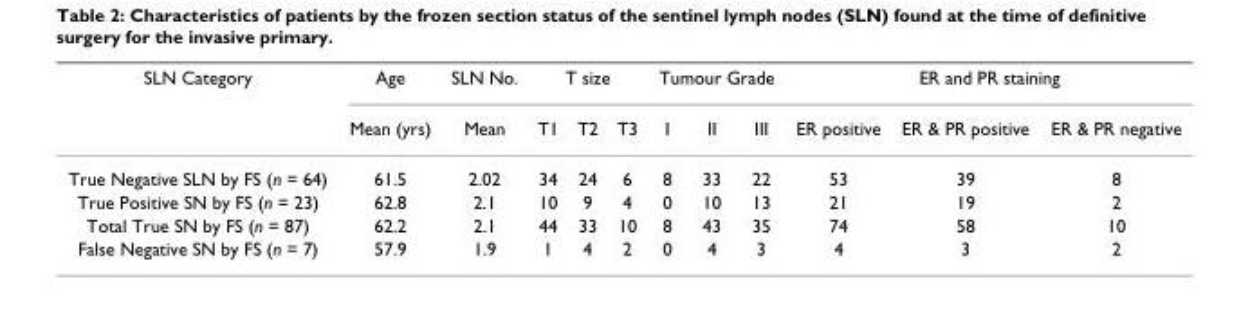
<table><thead><tr><td rowspan="2">SLN Category</td><td rowspan="2">Age Mean (yrs)</td><td rowspan="2">SLN No. Mean</td><td colspan="3">T size</td><td colspan="3">Tumour Grade</td><td colspan="3">ER and PR staining</td></tr><tr><td>T1</td><td>T2</td><td>T3</td><td>I</td><td>II</td><td>III</td><td>ER positive</td><td>ER &amp; PR positive</td><td>ER &amp; PR negative</td></tr></thead><tbody><tr><td>True Negative SLN by FS (n = 64)</td><td>61.5</td><td>2.02</td><td>34</td><td>24</td><td>6</td><td>8</td><td>33</td><td>22</td><td>53</td><td>39</td><td>8</td></tr><tr><td>True Positive SN by FS (n = 23)</td><td>62.8</td><td>2.1</td><td>10</td><td>9</td><td>4</td><td>0</td><td>10</td><td>13</td><td>21</td><td>19</td><td>2</td></tr><tr><td>Total True SN by FS (n = 87)</td><td>62.2</td><td>2.1</td><td>44</td><td>33</td><td>10</td><td>8</td><td>43</td><td>35</td><td>74</td><td>58</td><td>10</td></tr><tr><td>False Negative SN by FS (n = 7)</td><td>57.9</td><td>1.9</td><td>1</td><td>4</td><td>2</td><td>0</td><td>4</td><td>3</td><td>4</td><td>3</td><td>2</td></tr></tbody></table>